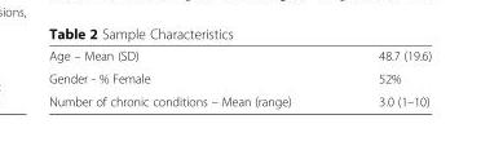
<table><tbody><tr><td>Age – Mean (SD)</td><td>48.7 (19.6)</td></tr><tr><td>Gender - % Female</td><td>52%</td></tr><tr><td>Number of chronic conditions – Mean (range)</td><td>3.0 (1–10)</td></tr></tbody></table>